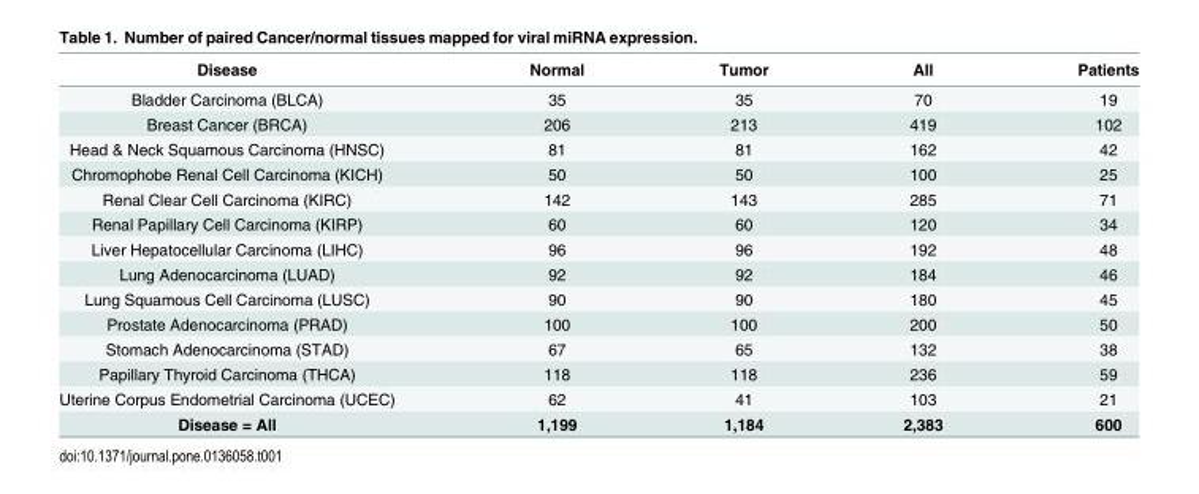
<table><thead><tr><td>Disease</td><td>Normal</td><td>Tumor</td><td>All</td><td>Patients</td></tr></thead><tbody><tr><td>Bladder Carcinoma (BLCA)</td><td>35</td><td>35</td><td>70</td><td>19</td></tr><tr><td>Breast Cancer (BRCA)</td><td>206</td><td>213</td><td>419</td><td>102</td></tr><tr><td>Head &amp; Neck Squamous Carcinoma (HNSC)</td><td>81</td><td>81</td><td>162</td><td>42</td></tr><tr><td>Chromophobe Renal Cell Carcinoma (KICH)</td><td>50</td><td>50</td><td>100</td><td>25</td></tr><tr><td>Renal Clear Cell Carcinoma (KIRC)</td><td>142</td><td>143</td><td>285</td><td>71</td></tr><tr><td>Renal Papillary Cell Carcinoma (KIRP)</td><td>60</td><td>60</td><td>120</td><td>34</td></tr><tr><td>Liver Hepatocellular Carcinoma (LIHC)</td><td>96</td><td>96</td><td>192</td><td>48</td></tr><tr><td>Lung Adenocarcinoma (LUAD)</td><td>92</td><td>92</td><td>184</td><td>46</td></tr><tr><td>Lung Squamous Cell Carcinoma (LUSC)</td><td>90</td><td>90</td><td>180</td><td>45</td></tr><tr><td>Prostate Adenocarcinoma (PRAD)</td><td>100</td><td>100</td><td>200</td><td>50</td></tr><tr><td>Stomach Adenocarcinoma (STAD)</td><td>67</td><td>65</td><td>132</td><td>38</td></tr><tr><td>Papillary Thyroid Carcinoma (THCA)</td><td>118</td><td>118</td><td>236</td><td>59</td></tr><tr><td>Uterine Corpus Endometrial Carcinoma (UCEC)</td><td>62</td><td>41</td><td>103</td><td>21</td></tr><tr><td>Disease = All</td><td>1,199</td><td>1,184</td><td>2,383</td><td>600</td></tr></tbody></table>